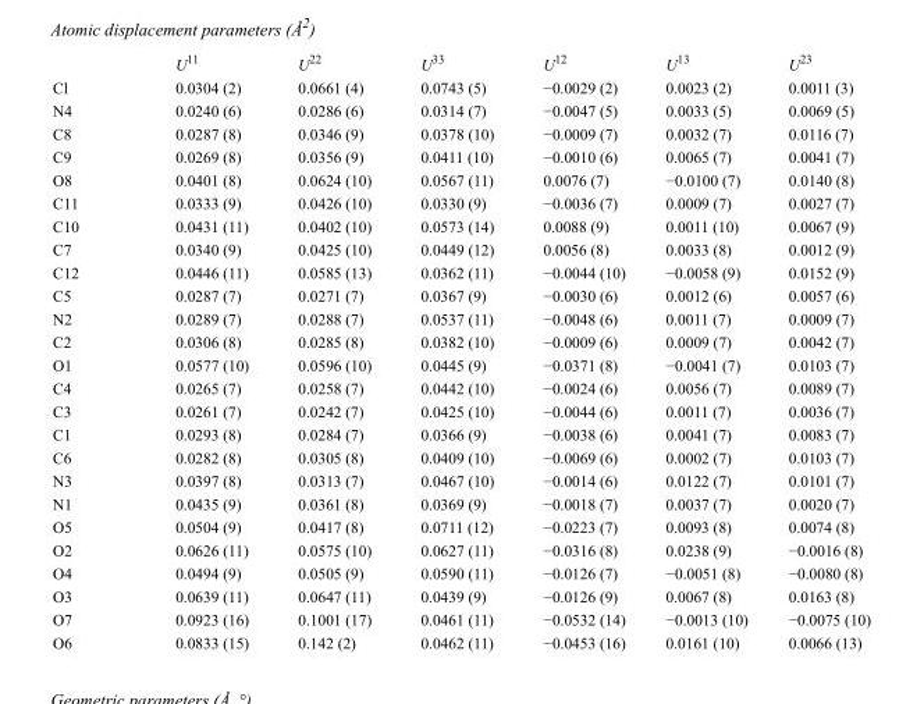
<table><thead><tr><td></td><td>U<sup>11</sup></td><td>U<sup>22</sup></td><td>U<sup>33</sup></td><td>U<sup>12</sup></td><td>U<sup>13</sup></td><td>U<sup>23</sup></td></tr></thead><tbody><tr><td>Cl</td><td>0.0304 (2)</td><td>0.0661 (4)</td><td>0.0743 (5)</td><td>−0.0029 (2)</td><td>0.0023 (2)</td><td>0.0011 (3)</td></tr><tr><td>N4</td><td>0.0240 (6)</td><td>0.0286 (6)</td><td>0.0314 (7)</td><td>−0.0047 (5)</td><td>0.0033 (5)</td><td>0.0069 (5)</td></tr><tr><td>C8</td><td>0.0287 (8)</td><td>0.0346 (9)</td><td>0.0378 (10)</td><td>−0.0009 (7)</td><td>0.0032 (7)</td><td>0.0116 (7)</td></tr><tr><td>C9</td><td>0.0269 (8)</td><td>0.0356 (9)</td><td>0.0411 (10)</td><td>−0.0010 (6)</td><td>0.0065 (7)</td><td>0.0041 (7)</td></tr><tr><td>O8</td><td>0.0401 (8)</td><td>0.0624 (10)</td><td>0.0567 (11)</td><td>0.0076 (7)</td><td>−0.0100 (7)</td><td>0.0140 (8)</td></tr><tr><td>C11</td><td>0.0333 (9)</td><td>0.0426 (10)</td><td>0.0330 (9)</td><td>−0.0036 (7)</td><td>0.0009 (7)</td><td>0.0027 (7)</td></tr><tr><td>C10</td><td>0.0431 (11)</td><td>0.0402 (10)</td><td>0.0573 (14)</td><td>0.0088 (9)</td><td>0.0011 (10)</td><td>0.0067 (9)</td></tr><tr><td>C7</td><td>0.0340 (9)</td><td>0.0425 (10)</td><td>0.0449 (12)</td><td>0.0056 (8)</td><td>0.0033 (8)</td><td>0.0012 (9)</td></tr><tr><td>C12</td><td>0.0446 (11)</td><td>0.0585 (13)</td><td>0.0362 (11)</td><td>−0.0044 (10)</td><td>−0.0058 (9)</td><td>0.0152 (9)</td></tr><tr><td>C5</td><td>0.0287 (7)</td><td>0.0271 (7)</td><td>0.0367 (9)</td><td>−0.0030 (6)</td><td>0.0012 (6)</td><td>0.0057 (6)</td></tr><tr><td>N2</td><td>0.0289 (7)</td><td>0.0288 (7)</td><td>0.0537 (11)</td><td>−0.0048 (6)</td><td>0.0011 (7)</td><td>0.0009 (7)</td></tr><tr><td>C2</td><td>0.0306 (8)</td><td>0.0285 (8)</td><td>0.0382 (10)</td><td>−0.0009 (6)</td><td>0.0009 (7)</td><td>0.0042 (7)</td></tr><tr><td>O1</td><td>0.0577 (10)</td><td>0.0596 (10)</td><td>0.0445 (9)</td><td>−0.0371 (8)</td><td>−0.0041 (7)</td><td>0.0103 (7)</td></tr><tr><td>C4</td><td>0.0265 (7)</td><td>0.0258 (7)</td><td>0.0442 (10)</td><td>−0.0024 (6)</td><td>0.0056 (7)</td><td>0.0089 (7)</td></tr><tr><td>C3</td><td>0.0261 (7)</td><td>0.0242 (7)</td><td>0.0425 (10)</td><td>−0.0044 (6)</td><td>0.0011 (7)</td><td>0.0036 (7)</td></tr><tr><td>C1</td><td>0.0293 (8)</td><td>0.0284 (7)</td><td>0.0366 (9)</td><td>−0.0038 (6)</td><td>0.0041 (7)</td><td>0.0083 (7)</td></tr><tr><td>C6</td><td>0.0282 (8)</td><td>0.0305 (8)</td><td>0.0409 (10)</td><td>−0.0069 (6)</td><td>0.0002 (7)</td><td>0.0103 (7)</td></tr><tr><td>N3</td><td>0.0397 (8)</td><td>0.0313 (7)</td><td>0.0467 (10)</td><td>−0.0014 (6)</td><td>0.0122 (7)</td><td>0.0101 (7)</td></tr><tr><td>N1</td><td>0.0435 (9)</td><td>0.0361 (8)</td><td>0.0369 (9)</td><td>−0.0018 (7)</td><td>0.0037 (7)</td><td>0.0020 (7)</td></tr><tr><td>O5</td><td>0.0504 (9)</td><td>0.0417 (8)</td><td>0.0711 (12)</td><td>−0.0223 (7)</td><td>0.0093 (8)</td><td>0.0074 (8)</td></tr><tr><td>O2</td><td>0.0626 (11)</td><td>0.0575 (10)</td><td>0.0627 (11)</td><td>−0.0316 (8)</td><td>0.0238 (9)</td><td>−0.0016 (8)</td></tr><tr><td>O4</td><td>0.0494 (9)</td><td>0.0505 (9)</td><td>0.0590 (11)</td><td>−0.0126 (7)</td><td>−0.0051 (8)</td><td>−0.0080 (8)</td></tr><tr><td>O3</td><td>0.0639 (11)</td><td>0.0647 (11)</td><td>0.0439 (9)</td><td>−0.0126 (9)</td><td>0.0067 (8)</td><td>0.0163 (8)</td></tr><tr><td>O7</td><td>0.0923 (16)</td><td>0.1001 (17)</td><td>0.0461 (11)</td><td>−0.0532 (14)</td><td>−0.0013 (10)</td><td>−0.0075 (10)</td></tr><tr><td>O6</td><td>0.0833 (15)</td><td>0.142 (2)</td><td>0.0462 (11)</td><td>−0.0453 (16)</td><td>0.0161 (10)</td><td>0.0066 (13)</td></tr></tbody></table>